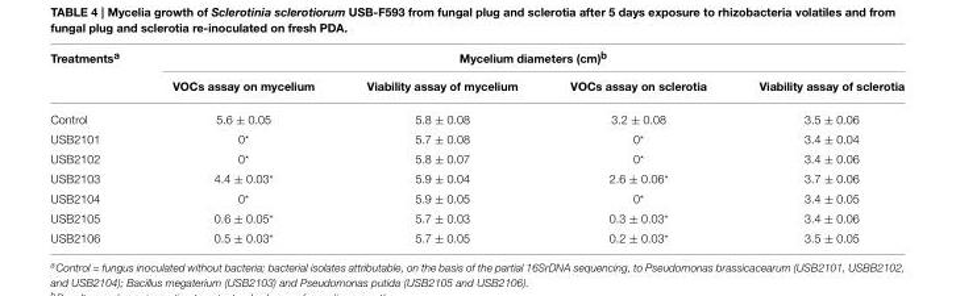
<table><thead><tr><td rowspan="2">Treatments<sup>a</sup></td><td colspan="4">Mycelium diameters (cm)<sup>b</sup></td></tr><tr><td>VOCs assay on mycelium</td><td>Viability assay of mycelium</td><td>VOCs assay on sclerotia</td><td>Viability assay of sclerotia</td></tr></thead><tbody><tr><td>Control</td><td>5.6 ± 0.05</td><td>5.8 ± 0.08</td><td>3.2 ± 0.08</td><td>3.5 ± 0.06</td></tr><tr><td>USB2101</td><td>0*</td><td>5.7 ± 0.08</td><td>0*</td><td>3.4 ± 0.04</td></tr><tr><td>USB2102</td><td>0*</td><td>5.8 ± 0.07</td><td>0*</td><td>3.4 ± 0.06</td></tr><tr><td>USB2103</td><td>4.4 ± 0.03*</td><td>5.9 ± 0.04</td><td>2.6 ± 0.06*</td><td>3.7 ± 0.06</td></tr><tr><td>USB2104</td><td>0*</td><td>5.9 ± 0.05</td><td>0*</td><td>3.4 ± 0.05</td></tr><tr><td>USB2105</td><td>0.6 ± 0.05*</td><td>5.7 ± 0.03</td><td>0.3 ± 0.03*</td><td>3.4 ± 0.06</td></tr><tr><td>USB2106</td><td>0.5 ± 0.03*</td><td>5.7 ± 0.05</td><td>0.2 ± 0.03*</td><td>3.5 ± 0.05</td></tr></tbody></table>